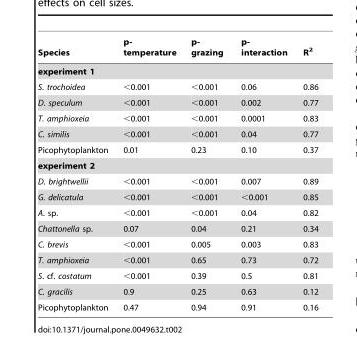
<table><thead><tr><td>Species</td><td>p- temperature</td><td>p- grazing</td><td>p- interaction</td><td>R<sup>2</sup></td></tr></thead><tbody><tr><td colspan="5">experiment 1</td></tr><tr><td>S. trochoidea</td><td>&lt;0.001</td><td>&lt;0.001</td><td>0.06</td><td>0.86</td></tr><tr><td>D. speculum</td><td>&lt;0.001</td><td>&lt;0.001</td><td>0.002</td><td>0.77</td></tr><tr><td>T. amphioxeia</td><td>&lt;0.001</td><td>&lt;0.001</td><td>0.0001</td><td>0.83</td></tr><tr><td>C. similis</td><td>&lt;0.001</td><td>&lt;0.001</td><td>0.04</td><td>0.77</td></tr><tr><td>Picophytoplankton</td><td>0.01</td><td>0.23</td><td>0.10</td><td>0.37</td></tr><tr><td colspan="5">experiment 2</td></tr><tr><td>D. brightwellii</td><td>&lt;0.001</td><td>&lt;0.001</td><td>0.007</td><td>0.89</td></tr><tr><td>G. delicatula</td><td>&lt;0.001</td><td>&lt;0.001</td><td>&lt;0.001</td><td>0.85</td></tr><tr><td>A. sp.</td><td>&lt;0.001</td><td>&lt;0.001</td><td>0.04</td><td>0.82</td></tr><tr><td>Chattonella sp.</td><td>0.07</td><td>0.04</td><td>0.21</td><td>0.34</td></tr><tr><td>C. brevis</td><td>&lt;0.001</td><td>0.005</td><td>0.003</td><td>0.83</td></tr><tr><td>T. amphioxeia</td><td>&lt;0.001</td><td>0.65</td><td>0.73</td><td>0.72</td></tr><tr><td>S. cf. costatum</td><td>&lt;0.001</td><td>0.39</td><td>0.5</td><td>0.81</td></tr><tr><td>C. gracilis</td><td>0.9</td><td>0.25</td><td>0.63</td><td>0.12</td></tr><tr><td>Picophytoplankton</td><td>0.47</td><td>0.94</td><td>0.91</td><td>0.16</td></tr></tbody></table>